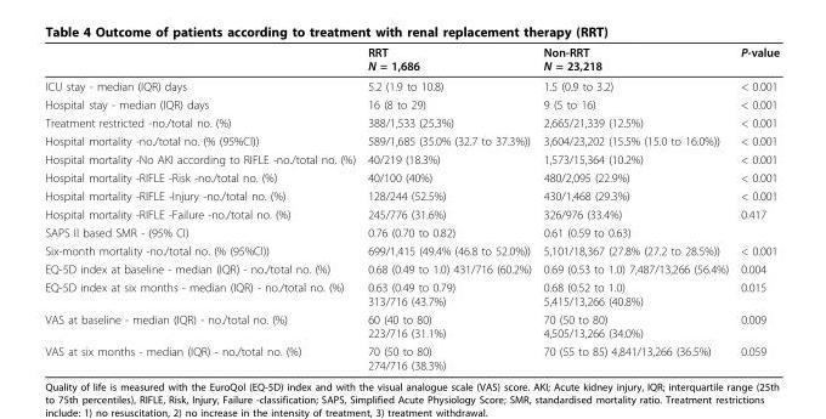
<table><thead><tr><td></td><td>RRT N = 1,686</td><td>Non-RRT N = 23,218</td><td>P-value</td></tr></thead><tbody><tr><td>ICU stay - median (IQR) days</td><td>5.2 (1.9 to 10.8)</td><td>1.5 (0.9 to 3.2)</td><td>&lt; 0.001</td></tr><tr><td>Hospital stay - median (IQR) days</td><td>16 (8 to 29)</td><td>9 (5 to 16)</td><td>&lt; 0.001</td></tr><tr><td>Treatment restricted -no./total no. (%)</td><td>388/1,533 (25.3%)</td><td>2,665/21,339 (12.5%)</td><td>&lt; 0.001</td></tr><tr><td>Hospital mortality -no./total no. (% (95%CI))</td><td>589/1,685 (35.0% (32.7 to 37.3%))</td><td>3,604/23,202 (15.5% (15.0 to 16.0%))</td><td>&lt; 0.001</td></tr><tr><td>Hospital mortality -No AKI according to RIFLE -no./total no. (%)</td><td>40/219 (18.3%)</td><td>1,573/15,364 (10.2%)</td><td>&lt; 0.001</td></tr><tr><td>Hospital mortality -RIFLE -Risk -no./total no. (%)</td><td>40/100 (40%)</td><td>480/2,095 (22.9%)</td><td>&lt; 0.001</td></tr><tr><td>Hospital mortality -RIFLE -Injury -no./total no. (%)</td><td>128/244 (52.5%)</td><td>430/1,468 (29.3%)</td><td>&lt; 0.001</td></tr><tr><td>Hospital mortality -RIFLE -Failure -no./total no. (%)</td><td>245/776 (31.6%)</td><td>326/976 (33.4%)</td><td>0.417</td></tr><tr><td>SAPS II based SMR - (95% CI)</td><td>0.76 (0.70 to 0.82)</td><td>0.61 (0.59 to 0.63)</td><td></td></tr><tr><td>Six-month mortality -no./total no. (% (95%CI))</td><td>699/1,415 (49.4% (46.8 to 52.0%))</td><td>5,101/18,367 (27.8% (27.2 to 28.5%))</td><td>&lt; 0.001</td></tr><tr><td>EQ-5D index at baseline - median (IQR) - no./total no. (%)</td><td>0.68 (0.49 to 1.0) 431/716 (60.2%)</td><td>0.69 (0.53 to 1.0) 7,487/13,266 (56.4%)</td><td>0.004</td></tr><tr><td>EQ-5D index at six months - median (IQR) - no./total no. (%)</td><td>0.63 (0.49 to 0.79) 313/716 (43.7%)</td><td>0.68 (0.52 to 1.0) 5,415/13,266 (40.8%)</td><td>0.015</td></tr><tr><td>VAS at baseline - median (IQR) - no./total no. (%)</td><td>60 (40 to 80) 223/716 (31.1%)</td><td>70 (50 to 80) 4,505/13,266 (34.0%)</td><td>0.009</td></tr><tr><td>VAS at six months - median (IQR) - no./total no. (%)</td><td>70 (50 to 80) 274/716 (38.3%)</td><td>70 (55 to 85) 4,841/13,266 (36.5%)</td><td>0.059</td></tr></tbody></table>